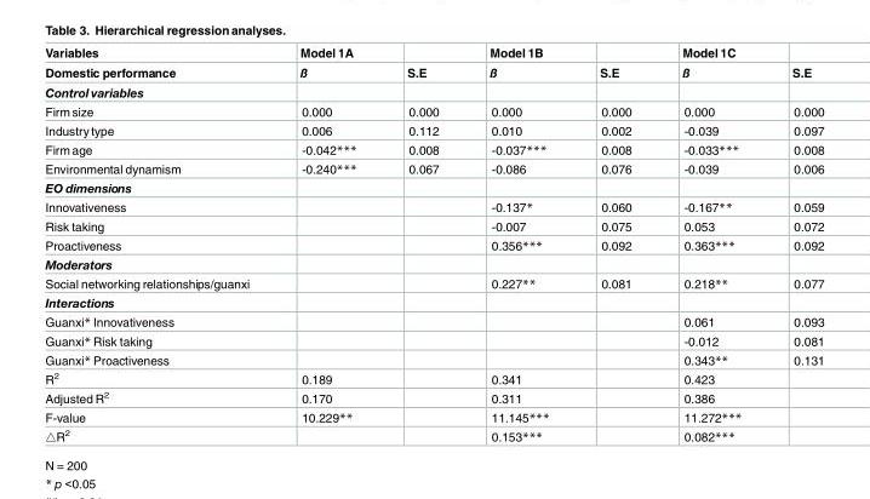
<table><thead><tr><td rowspan="2">Variables Domestic performance</td><td rowspan="2">Model 1A ß</td><td rowspan="2">S.E</td><td rowspan="2">Model 1B ß</td><td rowspan="2">S.E</td><td rowspan="2">Model 1C ß</td><td rowspan="2">S.E</td></tr><tr></tr></thead><tbody><tr><td colspan="7">Control variables</td></tr><tr><td>Firm size</td><td>0.000</td><td>0.000</td><td>0.000</td><td>0.000</td><td>0.000</td><td>0.000</td></tr><tr><td>Industry type</td><td>0.006</td><td>0.112</td><td>0.010</td><td>0.002</td><td>-0.039</td><td>0.097</td></tr><tr><td>Firm age</td><td>-0.042***</td><td>0.008</td><td>-0.037***</td><td>0.008</td><td>-0.033***</td><td>0.008</td></tr><tr><td>Environmental dynamism</td><td>-0.240***</td><td>0.067</td><td>-0.086</td><td>0.076</td><td>-0.039</td><td>0.006</td></tr><tr><td colspan="7">EO dimensions</td></tr><tr><td>Innovativeness</td><td></td><td></td><td>-0.137*</td><td>0.060</td><td>-0.167**</td><td>0.059</td></tr><tr><td>Risk taking</td><td></td><td></td><td>-0.007</td><td>0.075</td><td>0.053</td><td>0.072</td></tr><tr><td>Proactiveness</td><td></td><td></td><td>0.356***</td><td>0.092</td><td>0.363***</td><td>0.092</td></tr><tr><td colspan="7">Moderators</td></tr><tr><td>Social networking relationships/guanxi</td><td></td><td></td><td>0.227**</td><td>0.081</td><td>0.218**</td><td>0.077</td></tr><tr><td colspan="7">Interactions</td></tr><tr><td>Guanxi* Innovativeness</td><td></td><td></td><td></td><td></td><td>0.061</td><td>0.093</td></tr><tr><td>Guanxi* Risk taking</td><td></td><td></td><td></td><td></td><td>-0.012</td><td>0.081</td></tr><tr><td>Guanxi* Proactiveness</td><td></td><td></td><td></td><td></td><td>0.343**</td><td>0.131</td></tr><tr><td>R<sup>2</sup></td><td>0.189</td><td></td><td>0.341</td><td></td><td>0.423</td><td></td></tr><tr><td>Adjusted R<sup>2</sup></td><td>0.170</td><td></td><td>0.311</td><td></td><td>0.386</td><td></td></tr><tr><td>F-value</td><td>10.229**</td><td></td><td>11.145***</td><td></td><td>11.272***</td><td></td></tr><tr><td>△R<sup>2</sup></td><td></td><td></td><td>0.153***</td><td></td><td>0.082***</td><td></td></tr></tbody></table>